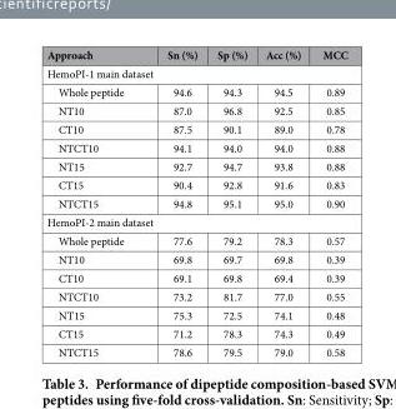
<table><thead><tr><td>Approach</td><td>Sn (%)</td><td>Sp (%)</td><td>Acc (%)</td><td>MCC</td></tr></thead><tbody><tr><td colspan="5">HemoPI-1 main dataset</td></tr><tr><td>Whole peptide</td><td>94.6</td><td>94.3</td><td>94.5</td><td>0.89</td></tr><tr><td>NT10</td><td>87.0</td><td>96.8</td><td>92.5</td><td>0.85</td></tr><tr><td>CT10</td><td>87.5</td><td>90.1</td><td>89.0</td><td>0.78</td></tr><tr><td>NTCT10</td><td>94.1</td><td>94.0</td><td>94.0</td><td>0.88</td></tr><tr><td>NT15</td><td>92.7</td><td>94.7</td><td>93.8</td><td>0.88</td></tr><tr><td>CT15</td><td>90.4</td><td>92.8</td><td>91.6</td><td>0.83</td></tr><tr><td>NTCT15</td><td>94.8</td><td>95.1</td><td>95.0</td><td>0.90</td></tr><tr><td colspan="5">HemoPI-2 main dataset</td></tr><tr><td>Whole peptide</td><td>77.6</td><td>79.2</td><td>78.3</td><td>0.57</td></tr><tr><td>NT10</td><td>69.8</td><td>69.7</td><td>69.8</td><td>0.39</td></tr><tr><td>CT10</td><td>69.1</td><td>69.8</td><td>69.4</td><td>0.39</td></tr><tr><td>NTCT10</td><td>73.2</td><td>81.7</td><td>77.0</td><td>0.55</td></tr><tr><td>NT15</td><td>75.3</td><td>72.5</td><td>74.1</td><td>0.48</td></tr><tr><td>CT15</td><td>71.2</td><td>78.3</td><td>74.3</td><td>0.49</td></tr><tr><td>NTCT15</td><td>78.6</td><td>79.5</td><td>79.0</td><td>0.58</td></tr></tbody></table>